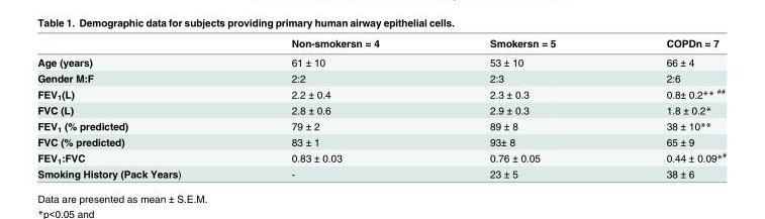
<table><thead><tr><td></td><td>Non-smokersn = 4</td><td>Smokersn = 5</td><td>COPDn = 7</td></tr></thead><tbody><tr><td>Age (years)</td><td>61 ± 10</td><td>53 ± 10</td><td>66 ± 4</td></tr><tr><td>Gender M:F</td><td>2:2</td><td>2:3</td><td>2:6</td></tr><tr><td>FEV<sub>1</sub>(L)</td><td>2.2 ± 0.4</td><td>2.3 ± 0.3</td><td>0.8± 0.2** <sup>##</sup></td></tr><tr><td>FVC (L)</td><td>2.8 ± 0.6</td><td>2.9 ± 0.3</td><td>1.8 ± 0.2*</td></tr><tr><td>FEV<sub>1</sub> (% predicted)</td><td>79 ± 2</td><td>89 ± 8</td><td>38 ± 10**</td></tr><tr><td>FVC (% predicted)</td><td>83 ± 1</td><td>93± 8</td><td>65 ± 9</td></tr><tr><td>FEV<sub>1</sub>:FVC</td><td>0.83 ± 0.03</td><td>0.76 ± 0.05</td><td>0.44 ± 0.09*<sup>#</sup></td></tr><tr><td>Smoking History (Pack Years)</td><td>-</td><td>23 ± 5</td><td>38 ± 6</td></tr></tbody></table>